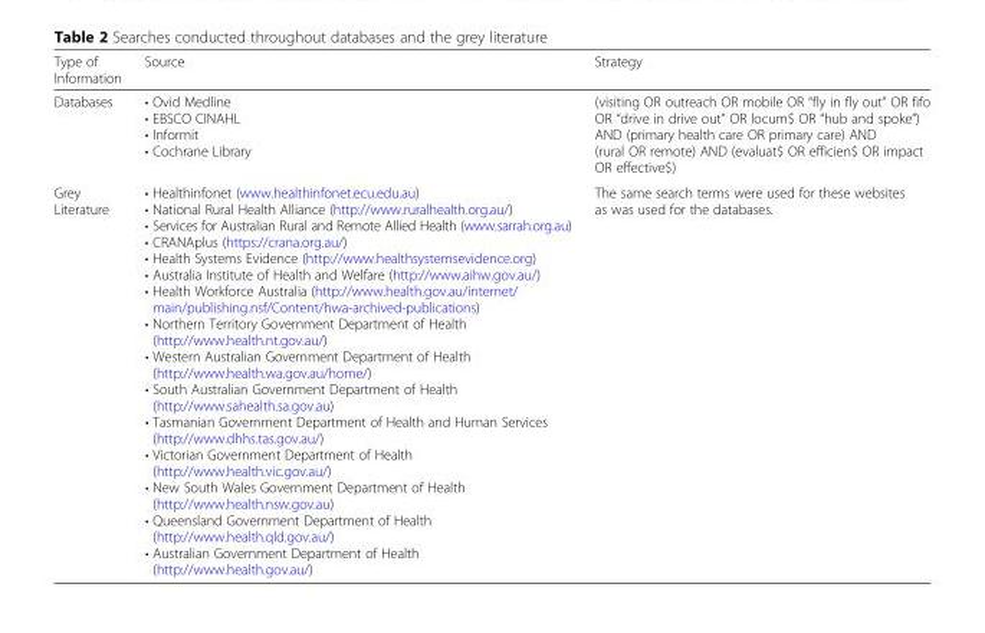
<table><thead><tr><td>Type of Information</td><td>Source</td><td>Strategy</td></tr></thead><tbody><tr><td>Databases</td><td>• Ovid Medline • EBSCO CINAHL • Informit • Cochrane Library</td><td>(visiting OR outreach OR mobile OR “fly in fly out” OR fifo OR “drive in drive out” OR locum$ OR “hub and spoke”) AND (primary health care OR primary care) AND (rural OR remote) AND (evaluat$ OR efficien$ OR impact OR effective$)</td></tr><tr><td>Grey Literature</td><td>• Healthinfonet (www.healthinfonet.ecu.edu.au) • National Rural Health Alliance (http://www.ruralhealth.org.au/) • Services for Australian Rural and Remote Allied Health (www.sarrah.org.au) • CRANAplus (https://crana.org.au/) • Health Systems Evidence (http://www.healthsystemsevidence.org) • Australia Institute of Health and Welfare (http://www.aihw.gov.au/) • Health Workforce Australia (http://www.health.gov.au/internet/ main/publishing.nsf/Content/hwa-archived-publications) • Northern Territory Government Department of Health (http://www.health.nt.gov.au/) • Western Australian Government Department of Health (http://www.health.wa.gov.au/home/) • South Australian Government Department of Health (http://www.sahealth.sa.gov.au) • Tasmanian Government Department of Health and Human Services (http://www.dhhs.tas.gov.au/) • Victorian Government Department of Health (http://www.health.vic.gov.au/) • New South Wales Government Department of Health (http://www.health.nsw.gov.au) • Queensland Government Department of Health (http://www.health.qld.gov.au/) • Australian Government Department of Health (http://www.health.gov.au/)</td><td>The same search terms were used for these websites as was used for the databases.</td></tr></tbody></table>